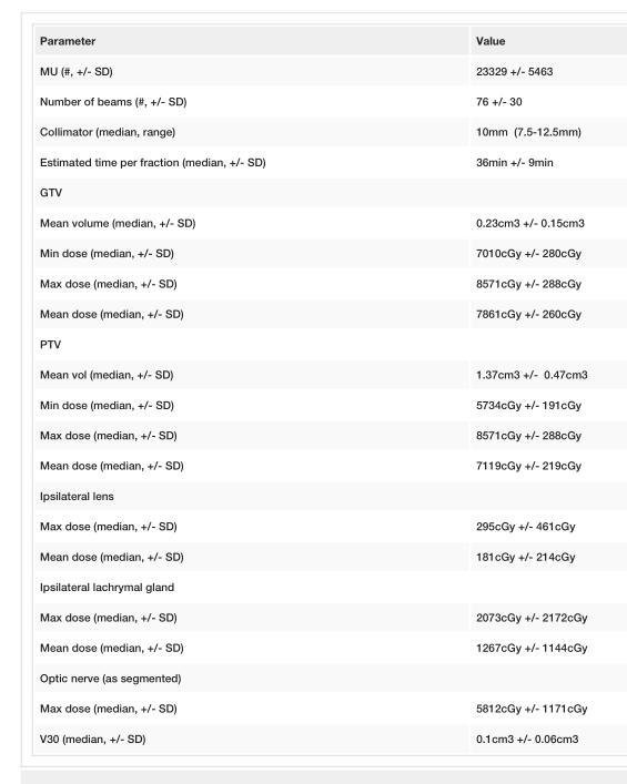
<table><tbody><tr><td>Parameter</td><td>Value</td></tr><tr><td>MU (#, +/- SD)</td><td>23329 +/- 5463</td></tr><tr><td>Number of beams (#, +/- SD)</td><td>76 +/- 30</td></tr><tr><td>Collimator (median, range)</td><td>10mm (7.5-12.5mm)</td></tr><tr><td>Estimated time per fraction (median, +/- SD)</td><td>36min +/- 9min</td></tr><tr><td colspan="2">GTV</td></tr><tr><td>Mean volume (median, +/- SD)</td><td>0.23cm3 +/- 0.15cm3</td></tr><tr><td>Min dose (median, +/- SD)</td><td>7010cGy +/- 280cGy</td></tr><tr><td>Max dose (median, +/- SD)</td><td>8571cGy +/- 288cGy</td></tr><tr><td>Mean dose (median, +/- SD)</td><td>7861cGy +/- 260cGy</td></tr><tr><td colspan="2">PTV</td></tr><tr><td>Mean vol (median, +/- SD)</td><td>1.37cm3 +/- 0.47cm3</td></tr><tr><td>Min dose (median, +/- SD)</td><td>5734cGy +/- 191cGy</td></tr><tr><td>Max dose (median, +/- SD)</td><td>8571cGy +/- 288cGy</td></tr><tr><td>Mean dose (median, +/- SD)</td><td>7119cGy +/- 219cGy</td></tr><tr><td colspan="2">Ipsilateral lens</td></tr><tr><td>Max dose (median, +/- SD)</td><td>295cGy +/- 461cGy</td></tr><tr><td>Mean dose (median, +/- SD)</td><td>181cGy +/- 214cGy</td></tr><tr><td colspan="2">Ipsilateral lachrymal gland</td></tr><tr><td>Max dose (median, +/- SD)</td><td>2073cGy +/- 2172cGy</td></tr><tr><td>Mean dose (median, +/- SD)</td><td>1267cGy +/- 1144cGy</td></tr><tr><td colspan="2">Optic nerve (as segmented)</td></tr><tr><td>Max dose (median, +/- SD)</td><td>5812cGy +/- 1171cGy</td></tr><tr><td>V30 (median, +/- SD)</td><td>0.1cm3 +/- 0.06cm3</td></tr></tbody></table>